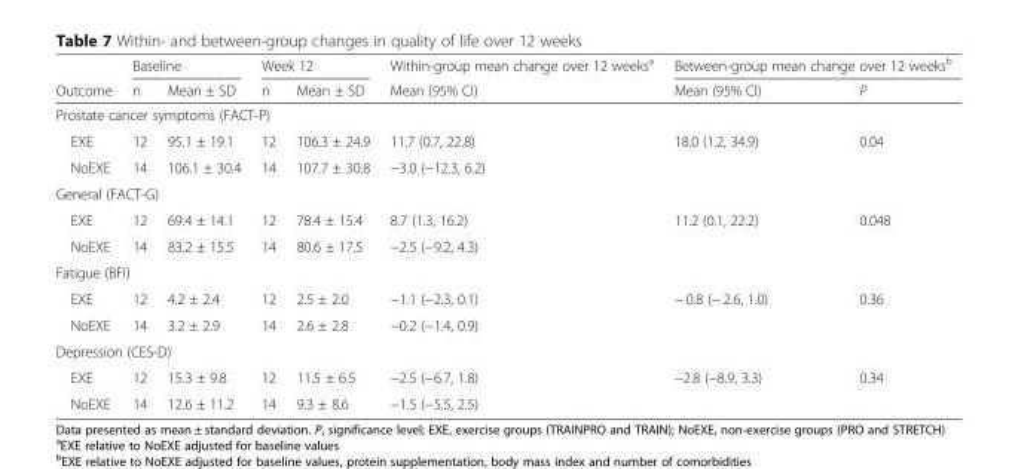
<table><thead><tr><td rowspan="2">Outcome</td><td colspan="2">Baseline</td><td colspan="2">Week 12</td><td rowspan="2">Within-group mean change over 12 weeks<sup>a</sup> Mean (95% CI)</td><td colspan="2">Between-group mean change over 12 weeks<sup>b</sup></td></tr><tr><td>n</td><td>Mean ± SD</td><td>n</td><td>Mean ± SD</td><td>Mean (95% CI)</td><td>P</td></tr></thead><tbody><tr><td colspan="8">Prostate cancer symptoms (FACT-P)</td></tr><tr><td>EXE</td><td>12</td><td>95.1 ± 19.1</td><td>12</td><td>106.3 ± 24.9</td><td>11.7 (0.7, 22.8)</td><td>18.0 (1.2, 34.9)</td><td>0.04</td></tr><tr><td>NoEXE</td><td>14</td><td>106.1 ± 30.4</td><td>14</td><td>107.7 ± 30.8</td><td>−3.0 (−12.3, 6.2)</td><td></td><td></td></tr><tr><td colspan="8">General (FACT-G)</td></tr><tr><td>EXE</td><td>12</td><td>69.4 ± 14.1</td><td>12</td><td>78.4 ± 15.4</td><td>8.7 (1.3, 16.2)</td><td>11.2 (0.1, 22.2)</td><td>0.048</td></tr><tr><td>NoEXE</td><td>14</td><td>83.2 ± 15.5</td><td>14</td><td>80.6 ± 17.5</td><td>−2.5 (−9.2, 4.3)</td><td></td><td></td></tr><tr><td colspan="8">Fatigue (BFI)</td></tr><tr><td>EXE</td><td>12</td><td>4.2 ± 2.4</td><td>12</td><td>2.5 ± 2.0</td><td>−1.1 (−2.3, 0.1)</td><td>− 0.8 (− 2.6, 1.0)</td><td>0.36</td></tr><tr><td>NoEXE</td><td>14</td><td>3.2 ± 2.9</td><td>14</td><td>2.6 ± 2.8</td><td>−0.2 (−1.4, 0.9)</td><td></td><td></td></tr><tr><td colspan="8">Depression (CES-D)</td></tr><tr><td>EXE</td><td>12</td><td>15.3 ± 9.8</td><td>12</td><td>11.5 ± 6.5</td><td>−2.5 (−6.7, 1.8)</td><td>−2.8 (−8.9, 3.3)</td><td>0.34</td></tr><tr><td>NoEXE</td><td>14</td><td>12.6 ± 11.2</td><td>14</td><td>9.3 ± 8.6</td><td>−1.5 (−5.5, 2.5)</td><td></td><td></td></tr></tbody></table>